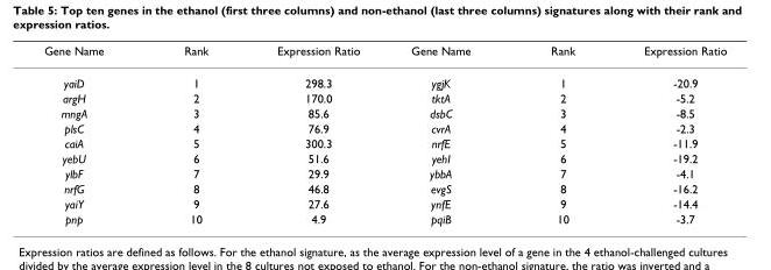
<table><thead><tr><td>Gene Name</td><td>Rank</td><td>Expression Ratio</td><td>Gene Name</td><td>Rank</td><td>Expression Ratio</td></tr></thead><tbody><tr><td>yaiD</td><td>1</td><td>298.3</td><td>ygjK</td><td>1</td><td>-20.9</td></tr><tr><td>argH</td><td>2</td><td>170.0</td><td>tktA</td><td>2</td><td>-5.2</td></tr><tr><td>mngA</td><td>3</td><td>85.6</td><td>dsbC</td><td>3</td><td>-8.5</td></tr><tr><td>plsC</td><td>4</td><td>76.9</td><td>cvrA</td><td>4</td><td>-2.3</td></tr><tr><td>caiA</td><td>5</td><td>300.3</td><td>nrfE</td><td>5</td><td>-11.9</td></tr><tr><td>yebU</td><td>6</td><td>51.6</td><td>yehI</td><td>6</td><td>-19.2</td></tr><tr><td>ylbF</td><td>7</td><td>29.9</td><td>ybbA</td><td>7</td><td>-4.1</td></tr><tr><td>nrfG</td><td>8</td><td>46.8</td><td>evgS</td><td>8</td><td>-16.2</td></tr><tr><td>yaiY</td><td>9</td><td>27.6</td><td>ynfE</td><td>9</td><td>-14.4</td></tr><tr><td>pnp</td><td>10</td><td>4.9</td><td>pqiB</td><td>10</td><td>-3.7</td></tr></tbody></table>